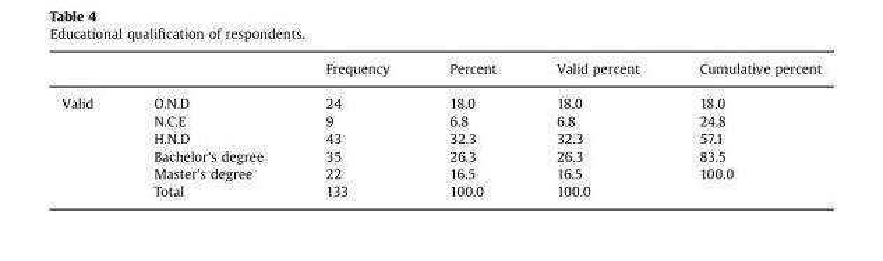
<table><thead><tr><td></td><td></td><td>Frequency</td><td>Percent</td><td>Valid percent</td><td>Cumulative percent</td></tr></thead><tbody><tr><td rowspan="6">Valid</td><td>O.N.D</td><td>24</td><td>18.0</td><td>18.0</td><td>18.0</td></tr><tr><td>N.C.E</td><td>9</td><td>6.8</td><td>6.8</td><td>24.8</td></tr><tr><td>H.N.D</td><td>43</td><td>32.3</td><td>32.3</td><td>57.1</td></tr><tr><td>Bachelor&#x27;s degree</td><td>35</td><td>26.3</td><td>26.3</td><td>83.5</td></tr><tr><td>Master&#x27;s degree</td><td>22</td><td>16.5</td><td>16.5</td><td>100.0</td></tr><tr><td>Total</td><td>133</td><td>100.0</td><td>100.0</td><td></td></tr></tbody></table>